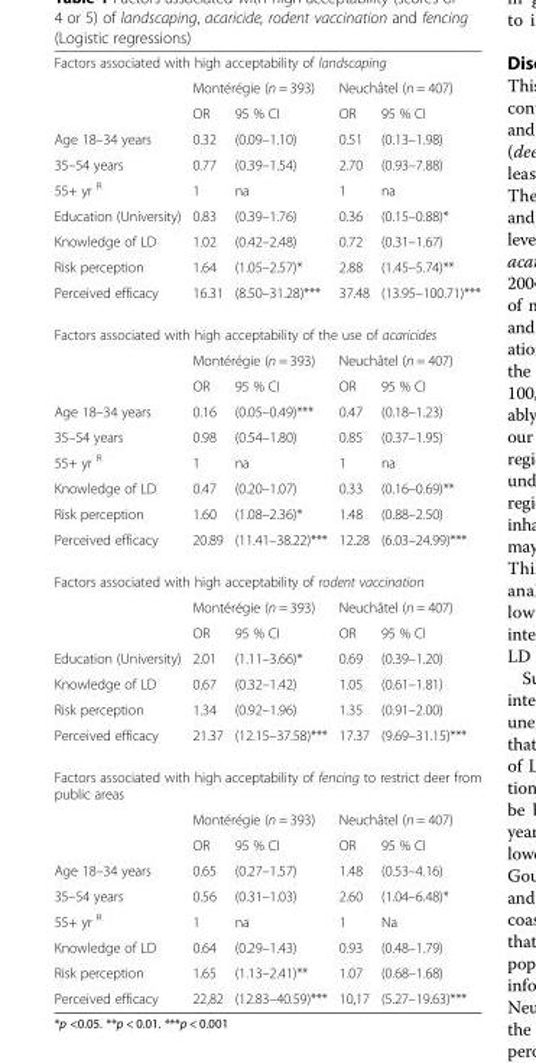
<table><tbody><tr><td colspan="5">Factors associated with high acceptability of landscaping</td></tr><tr><td></td><td colspan="2">Montérégie (n = 393)</td><td colspan="2">Neuchâtel (n = 407)</td></tr><tr><td></td><td>OR</td><td>95 % CI</td><td>OR</td><td>95 % CI</td></tr><tr><td>Age 18–34 years</td><td>0.32</td><td>(0.09–1.10)</td><td>0.51</td><td>(0.13–1.98)</td></tr><tr><td>35–54 years</td><td>0.77</td><td>(0.39–1.54)</td><td>2.70</td><td>(0.93–7.88)</td></tr><tr><td>55+ yr <sup>R</sup></td><td>1</td><td>na</td><td>1</td><td>na</td></tr><tr><td>Education (University)</td><td>0.83</td><td>(0.39–1.76)</td><td>0.36</td><td>(0.15–0.88)*</td></tr><tr><td>Knowledge of LD</td><td>1.02</td><td>(0.42–2.48)</td><td>0.72</td><td>(0.31–1.67)</td></tr><tr><td>Risk perception</td><td>1.64</td><td>(1.05–2.57)*</td><td>2.88</td><td>(1.45–5.74)**</td></tr><tr><td>Perceived efficacy</td><td>16.31</td><td>(8.50–31.28)***</td><td>37.48</td><td>(13.95–100.71)***</td></tr><tr><td colspan="5">Factors associated with high acceptability of the use of acaricides</td></tr><tr><td></td><td colspan="2">Montérégie (n = 393)</td><td colspan="2">Neuchâtel (n = 407)</td></tr><tr><td></td><td>OR</td><td>95 % CI</td><td>OR</td><td>95 % CI</td></tr><tr><td>Age 18–34 years</td><td>0.16</td><td>(0.05–0.49)***</td><td>0.47</td><td>(0.18–1.23)</td></tr><tr><td>35–54 years</td><td>0.98</td><td>(0.54–1.80)</td><td>0.85</td><td>(0.37–1.95)</td></tr><tr><td>55+ yr <sup>R</sup></td><td>1</td><td>na</td><td>1</td><td>na</td></tr><tr><td>Knowledge of LD</td><td>0.47</td><td>(0.20–1.07)</td><td>0.33</td><td>(0.16–0.69)**</td></tr><tr><td>Risk perception</td><td>1.60</td><td>(1.08–2.36)*</td><td>1.48</td><td>(0.88–2.50)</td></tr><tr><td>Perceived efficacy</td><td>20.89</td><td>(11.41–38.22)***</td><td>12.28</td><td>(6.03–24.99)***</td></tr><tr><td colspan="5">Factors associated with high acceptability of rodent vaccination</td></tr><tr><td></td><td colspan="2">Montérégie (n = 393)</td><td colspan="2">Neuchâtel (n = 407)</td></tr><tr><td></td><td>OR</td><td>95 % CI</td><td>OR</td><td>95 % CI</td></tr><tr><td>Education (University)</td><td>2.01</td><td>(1.11–3.66)*</td><td>0.69</td><td>(0.39–1.20)</td></tr><tr><td>Knowledge of LD</td><td>0.67</td><td>(0.32–1.42)</td><td>1.05</td><td>(0.61–1.81)</td></tr><tr><td>Risk perception</td><td>1.34</td><td>(0.92–1.96)</td><td>1.35</td><td>(0.91–2.00)</td></tr><tr><td>Perceived efficacy</td><td>21.37</td><td>(12.15–37.58)***</td><td>17.37</td><td>(9.69–31.15)***</td></tr><tr><td colspan="5">Factors associated with high acceptability of fencing to restrict deer from public areas</td></tr><tr><td></td><td colspan="2">Montérégie (n = 393)</td><td colspan="2">Neuchâtel (n = 407)</td></tr><tr><td></td><td>OR</td><td>95 % CI</td><td>OR</td><td>95 % CI</td></tr><tr><td>Age 18–34 years</td><td>0.65</td><td>(0.27–1.57)</td><td>1.48</td><td>(0.53–4.16)</td></tr><tr><td>35–54 years</td><td>0.56</td><td>(0.31–1.03)</td><td>2.60</td><td>(1.04–6.48)*</td></tr><tr><td>55+ yr <sup>R</sup></td><td>1</td><td>na</td><td>1</td><td>Na</td></tr><tr><td>Knowledge of LD</td><td>0.64</td><td>(0.29–1.43)</td><td>0.93</td><td>(0.48–1.79)</td></tr><tr><td>Risk perception</td><td>1.65</td><td>(1.13–2.41)**</td><td>1.07</td><td>(0.68–1.68)</td></tr><tr><td>Perceived efficacy</td><td>22,82</td><td>(12.83–40.59)***</td><td>10,17</td><td>(5.27–19.63)***</td></tr></tbody></table>